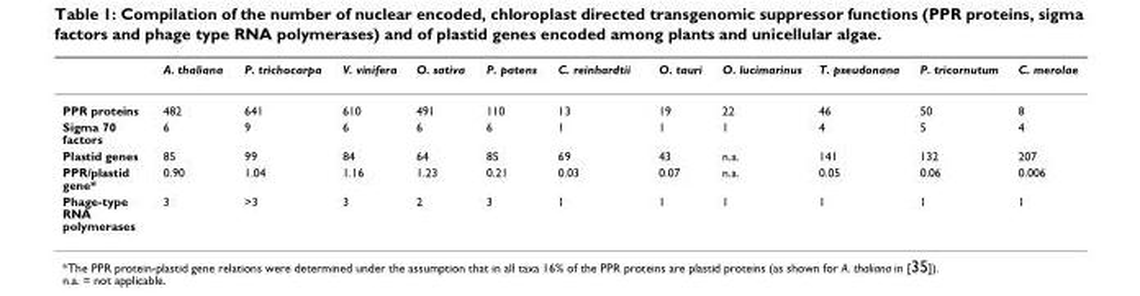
<table><thead><tr><td></td><td>A. thaliana</td><td>P. trichocarpa</td><td>V. vinifera</td><td>O. sativa</td><td>P. patens</td><td>C. reinhardtii</td><td>O. tauri</td><td>O. lucimarinus</td><td>T. pseudonana</td><td>P. tricornutum</td><td>C. merolae</td></tr></thead><tbody><tr><td>PPR proteins</td><td>482</td><td>641</td><td>610</td><td>491</td><td>110</td><td>13</td><td>19</td><td>22</td><td>46</td><td>50</td><td>8</td></tr><tr><td>Sigma 70 factors</td><td>6</td><td>9</td><td>6</td><td>6</td><td>6</td><td>1</td><td>1</td><td>1</td><td>4</td><td>5</td><td>4</td></tr><tr><td>Plastid genes</td><td>85</td><td>99</td><td>84</td><td>64</td><td>85</td><td>69</td><td>43</td><td>n.a.</td><td>141</td><td>132</td><td>207</td></tr><tr><td>PPR/plastid gene*</td><td>0.90</td><td>1.04</td><td>1.16</td><td>1.23</td><td>0.21</td><td>0.03</td><td>0.07</td><td>n.a.</td><td>0.05</td><td>0.06</td><td>0.006</td></tr><tr><td>Phage-type RNA polymerases</td><td>3</td><td>&gt;3</td><td>3</td><td>2</td><td>3</td><td>1</td><td>1</td><td>1</td><td>1</td><td>1</td><td>1</td></tr></tbody></table>